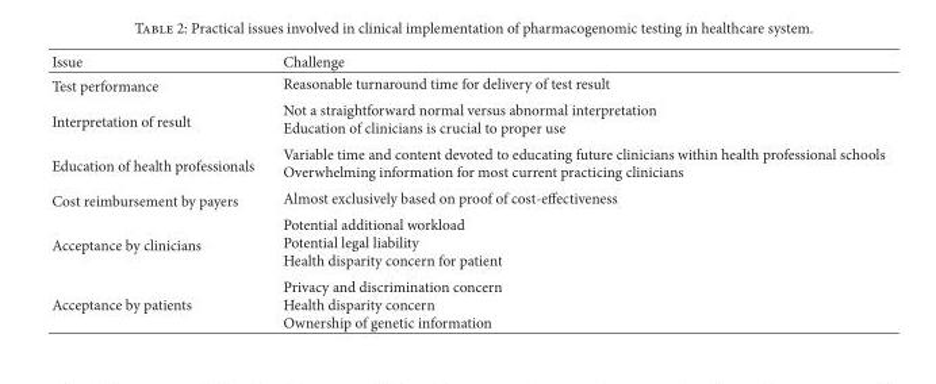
<table><thead><tr><td>Issue</td><td>Challenge</td></tr></thead><tbody><tr><td>Test performance</td><td>Reasonable turnaround time for delivery of test result</td></tr><tr><td>Interpretation of result</td><td>Not a straightforward normal versus abnormal interpretation Education of clinicians is crucial to proper use</td></tr><tr><td>Education of health professionals</td><td>Variable time and content devoted to educating future clinicians within health professional schools Overwhelming information for most current practicing clinicians</td></tr><tr><td>Cost reimbursement by payers</td><td>Almost exclusively based on proof of cost-effectiveness</td></tr><tr><td>Acceptance by clinicians</td><td>Potential additional workload Potential legal liability Health disparity concern for patient</td></tr><tr><td>Acceptance by patients</td><td>Privacy and discrimination concern Health disparity concern Ownership of genetic information</td></tr></tbody></table>